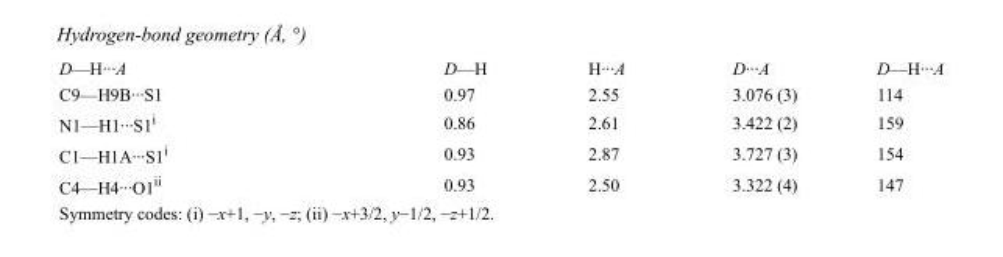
<table><tbody><tr><td>D—H···A</td><td>D—H</td><td>H···A</td><td>D···A</td><td>D—H···A</td></tr><tr><td>C9—H9B···S1</td><td>0.97</td><td>2.55</td><td>3.076 (3)</td><td>114</td></tr><tr><td>N1—H1···S1<sup>i</sup></td><td>0.86</td><td>2.61</td><td>3.422 (2)</td><td>159</td></tr><tr><td>C1—H1A···S1<sup>i</sup></td><td>0.93</td><td>2.87</td><td>3.727 (3)</td><td>154</td></tr><tr><td>C4—H4···O1<sup>ii</sup></td><td>0.93</td><td>2.50</td><td>3.322 (4)</td><td>147</td></tr></tbody></table>